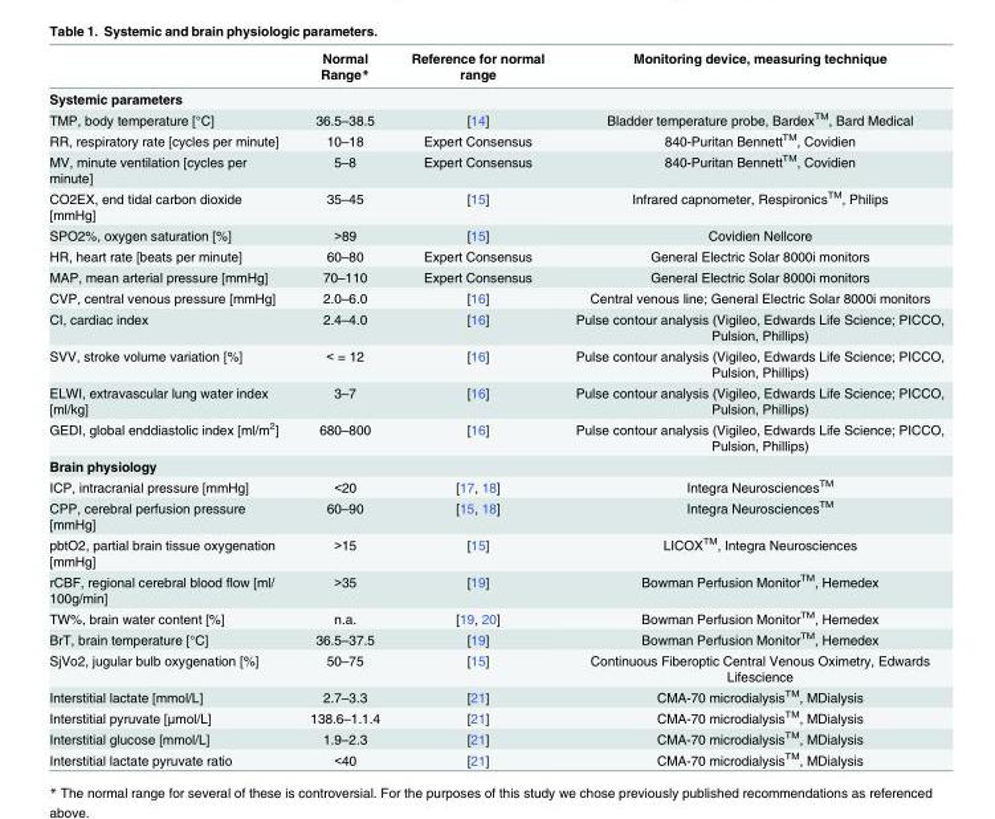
<table><thead><tr><td></td><td>Normal Range*</td><td>Reference for normal range</td><td>Monitoring device, measuring technique</td></tr></thead><tbody><tr><td colspan="4">Systemic parameters</td></tr><tr><td>TMP, body temperature [°C]</td><td>36.5–38.5</td><td>[14]</td><td>Bladder temperature probe, Bardex<sup>TM</sup>, Bard Medical</td></tr><tr><td>RR, respiratory rate [cycles per minute]</td><td>10–18</td><td>Expert Consensus</td><td>840-Puritan Bennett<sup>TM</sup>, Covidien</td></tr><tr><td>MV, minute ventilation [cycles per minute]</td><td>5–8</td><td>Expert Consensus</td><td>840-Puritan Bennett<sup>TM</sup>, Covidien</td></tr><tr><td>CO2EX, end tidal carbon dioxide [mmHg]</td><td>35–45</td><td>[15]</td><td>Infrared capnometer, Respironics<sup>TM</sup>, Philips</td></tr><tr><td>SPO2%, oxygen saturation [%]</td><td>&gt;89</td><td>[15]</td><td>Covidien Nellcore</td></tr><tr><td>HR, heart rate [beats per minute]</td><td>60–80</td><td>Expert Consensus</td><td>General Electric Solar 8000i monitors</td></tr><tr><td>MAP, mean arterial pressure [mmHg]</td><td>70–110</td><td>Expert Consensus</td><td>General Electric Solar 8000i monitors</td></tr><tr><td>CVP, central venous pressure [mmHg]</td><td>2.0–6.0</td><td>[16]</td><td>Central venous line; General Electric Solar 8000i monitors</td></tr><tr><td>CI, cardiac index</td><td>2.4–4.0</td><td>[16]</td><td>Pulse contour analysis (Vigileo, Edwards Life Science; PICCO, Pulsion, Phillips)</td></tr><tr><td>SVV, stroke volume variation [%]</td><td>&lt; = 12</td><td>[16]</td><td>Pulse contour analysis (Vigileo, Edwards Life Science; PICCO, Pulsion, Phillips)</td></tr><tr><td>ELWI, extravascular lung water index [ml/kg]</td><td>3–7</td><td>[16]</td><td>Pulse contour analysis (Vigileo, Edwards Life Science; PICCO, Pulsion, Phillips)</td></tr><tr><td>GEDI, global enddiastolic index [ml/m<sup>2</sup>]</td><td>680–800</td><td>[16]</td><td>Pulse contour analysis (Vigileo, Edwards Life Science; PICCO, Pulsion, Phillips)</td></tr><tr><td colspan="4">Brain physiology</td></tr><tr><td>ICP, intracranial pressure [mmHg]</td><td>&lt;20</td><td>[17, 18]</td><td>Integra Neurosciences<sup>TM</sup></td></tr><tr><td>CPP, cerebral perfusion pressure [mmHg]</td><td>60–90</td><td>[15, 18]</td><td>Integra Neurosciences<sup>TM</sup></td></tr><tr><td>pbtO2, partial brain tissue oxygenation [mmHg]</td><td>&gt;15</td><td>[15]</td><td>LICOX<sup>TM</sup>, Integra Neurosciences</td></tr><tr><td>rCBF, regional cerebral blood flow [ml/ 100g/min]</td><td>&gt;35</td><td>[19]</td><td>Bowman Perfusion Monitor<sup>TM</sup>, Hemedex</td></tr><tr><td>TW%, brain water content [%]</td><td>n.a.</td><td>[19, 20]</td><td>Bowman Perfusion Monitor<sup>TM</sup>, Hemedex</td></tr><tr><td>BrT, brain temperature [°C]</td><td>36.5–37.5</td><td>[19]</td><td>Bowman Perfusion Monitor<sup>TM</sup>, Hemedex</td></tr><tr><td>SjVo2, jugular bulb oxygenation [%]</td><td>50–75</td><td>[15]</td><td>Continuous Fiberoptic Central Venous Oximetry, Edwards Lifescience</td></tr><tr><td>Interstitial lactate [mmol/L]</td><td>2.7–3.3</td><td>[21]</td><td>CMA-70 microdialysis<sup>TM</sup>, MDialysis</td></tr><tr><td>Interstitial pyruvate [μmol/L]</td><td>138.6–1.1.4</td><td>[21]</td><td>CMA-70 microdialysis<sup>TM</sup>, MDialysis</td></tr><tr><td>Interstitial glucose [mmol/L]</td><td>1.9–2.3</td><td>[21]</td><td>CMA-70 microdialysis<sup>TM</sup>, MDialysis</td></tr><tr><td>Interstitial lactate pyruvate ratio</td><td>&lt;40</td><td>[21]</td><td>CMA-70 microdialysis<sup>TM</sup>, MDialysis</td></tr></tbody></table>